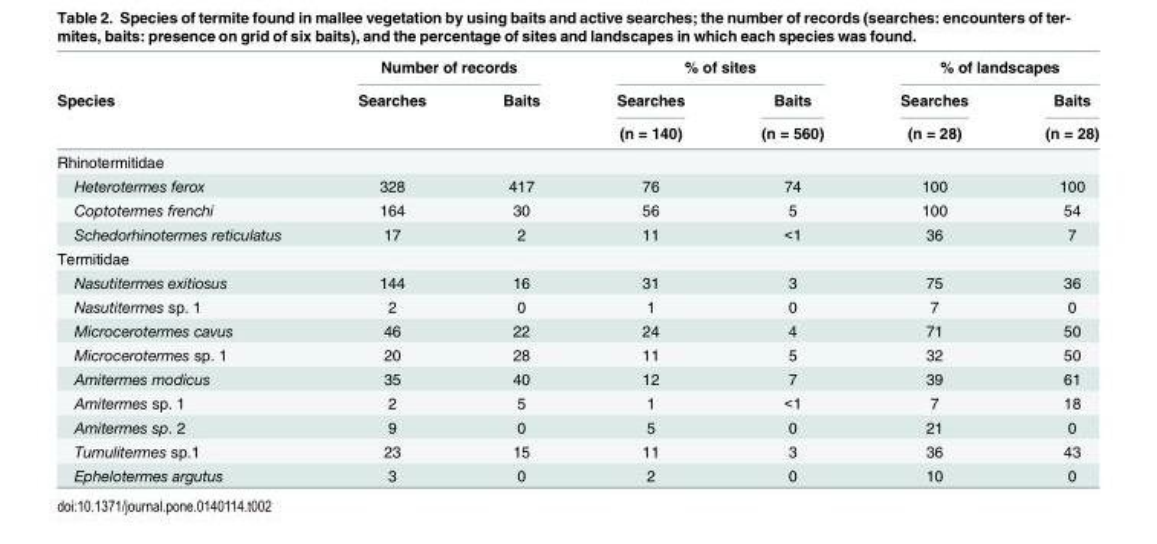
<table><thead><tr><td rowspan="3">Species</td><td colspan="2">Number of records</td><td colspan="2">% of sites</td><td colspan="2">% of landscapes</td></tr><tr><td rowspan="2">Searches</td><td rowspan="2">Baits</td><td rowspan="2">Searches (n = 140)</td><td rowspan="2">Baits (n = 560)</td><td rowspan="2">Searches (n = 28)</td><td rowspan="2">Baits (n = 28)</td></tr><tr></tr></thead><tbody><tr><td colspan="7">Rhinotermitidae</td></tr><tr><td>Heterotermes ferox</td><td>328</td><td>417</td><td>76</td><td>74</td><td>100</td><td>100</td></tr><tr><td>Coptotermes frenchi</td><td>164</td><td>30</td><td>56</td><td>5</td><td>100</td><td>54</td></tr><tr><td>Schedorhinotermes reticulatus</td><td>17</td><td>2</td><td>11</td><td>&lt;1</td><td>36</td><td>7</td></tr><tr><td colspan="7">Termitidae</td></tr><tr><td>Nasutitermes exitiosus</td><td>144</td><td>16</td><td>31</td><td>3</td><td>75</td><td>36</td></tr><tr><td>Nasutitermes sp. 1</td><td>2</td><td>0</td><td>1</td><td>0</td><td>7</td><td>0</td></tr><tr><td>Microcerotermes cavus</td><td>46</td><td>22</td><td>24</td><td>4</td><td>71</td><td>50</td></tr><tr><td>Microcerotermes sp. 1</td><td>20</td><td>28</td><td>11</td><td>5</td><td>32</td><td>50</td></tr><tr><td>Amitermes modicus</td><td>35</td><td>40</td><td>12</td><td>7</td><td>39</td><td>61</td></tr><tr><td>Amitermes sp. 1</td><td>2</td><td>5</td><td>1</td><td>&lt;1</td><td>7</td><td>18</td></tr><tr><td>Amitermes sp. 2</td><td>9</td><td>0</td><td>5</td><td>0</td><td>21</td><td>0</td></tr><tr><td>Tumulitermes sp.1</td><td>23</td><td>15</td><td>11</td><td>3</td><td>36</td><td>43</td></tr><tr><td>Ephelotermes argutus</td><td>3</td><td>0</td><td>2</td><td>0</td><td>10</td><td>0</td></tr></tbody></table>